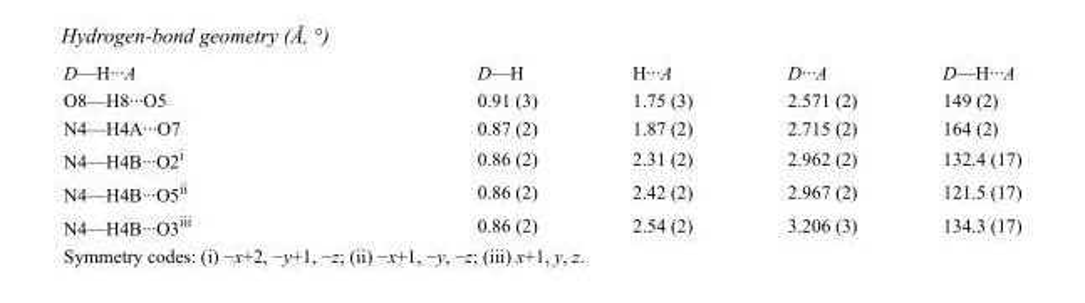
<table><tbody><tr><td>D—H···A</td><td>D—H</td><td>H···A</td><td>D···A</td><td>D—H···A</td></tr><tr><td>O8—H8···O5</td><td>0.91 (3)</td><td>1.75 (3)</td><td>2.571 (2)</td><td>149 (2)</td></tr><tr><td>N4—H4A···O7</td><td>0.87 (2)</td><td>1.87 (2)</td><td>2.715 (2)</td><td>164 (2)</td></tr><tr><td>N4—H4B···O2<sup>i</sup></td><td>0.86 (2)</td><td>2.31 (2)</td><td>2.962 (2)</td><td>132.4 (17)</td></tr><tr><td>N4—H4B···O5<sup>ii</sup></td><td>0.86 (2)</td><td>2.42 (2)</td><td>2.967 (2)</td><td>121.5 (17)</td></tr><tr><td>N4—H4B···O3<sup>iii</sup></td><td>0.86 (2)</td><td>2.54 (2)</td><td>3.206 (3)</td><td>134.3 (17)</td></tr></tbody></table>